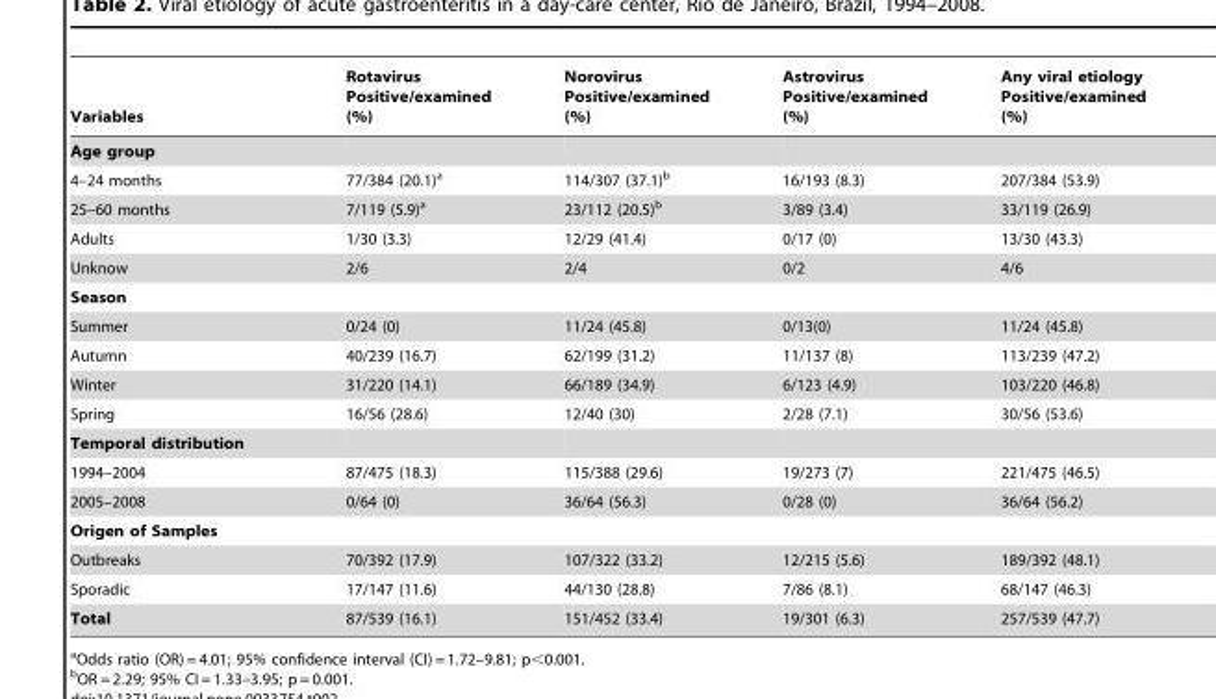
<table><thead><tr><td>Variables</td><td>Rotavirus Positive/examined (%)</td><td>Norovirus Positive/examined (%)</td><td>Astrovirus Positive/examined (%)</td><td>Any viral etiology Positive/examined (%)</td></tr></thead><tbody><tr><td colspan="5">Age group</td></tr><tr><td>4–24 months</td><td>77/384 (20.1)<sup>a</sup></td><td>114/307 (37.1)<sup>b</sup></td><td>16/193 (8.3)</td><td>207/384 (53.9)</td></tr><tr><td>25–60 months</td><td>7/119 (5.9)<sup>a</sup></td><td>23/112 (20.5)<sup>b</sup></td><td>3/89 (3.4)</td><td>33/119 (26.9)</td></tr><tr><td>Adults</td><td>1/30 (3.3)</td><td>12/29 (41.4)</td><td>0/17 (0)</td><td>13/30 (43.3)</td></tr><tr><td>Unknow</td><td>2/6</td><td>2/4</td><td>0/2</td><td>4/6</td></tr><tr><td colspan="5">Season</td></tr><tr><td>Summer</td><td>0/24 (0)</td><td>11/24 (45.8)</td><td>0/13(0)</td><td>11/24 (45.8)</td></tr><tr><td>Autumn</td><td>40/239 (16.7)</td><td>62/199 (31.2)</td><td>11/137 (8)</td><td>113/239 (47.2)</td></tr><tr><td>Winter</td><td>31/220 (14.1)</td><td>66/189 (34.9)</td><td>6/123 (4.9)</td><td>103/220 (46.8)</td></tr><tr><td>Spring</td><td>16/56 (28.6)</td><td>12/40 (30)</td><td>2/28 (7.1)</td><td>30/56 (53.6)</td></tr><tr><td colspan="5">Temporal distribution</td></tr><tr><td>1994–2004</td><td>87/475 (18.3)</td><td>115/388 (29.6)</td><td>19/273 (7)</td><td>221/475 (46.5)</td></tr><tr><td>2005–2008</td><td>0/64 (0)</td><td>36/64 (56.3)</td><td>0/28 (0)</td><td>36/64 (56.2)</td></tr><tr><td colspan="5">Origen of Samples</td></tr><tr><td>Outbreaks</td><td>70/392 (17.9)</td><td>107/322 (33.2)</td><td>12/215 (5.6)</td><td>189/392 (48.1)</td></tr><tr><td>Sporadic</td><td>17/147 (11.6)</td><td>44/130 (28.8)</td><td>7/86 (8.1)</td><td>68/147 (46.3)</td></tr><tr><td>Total</td><td>87/539 (16.1)</td><td>151/452 (33.4)</td><td>19/301 (6.3)</td><td>257/539 (47.7)</td></tr></tbody></table>